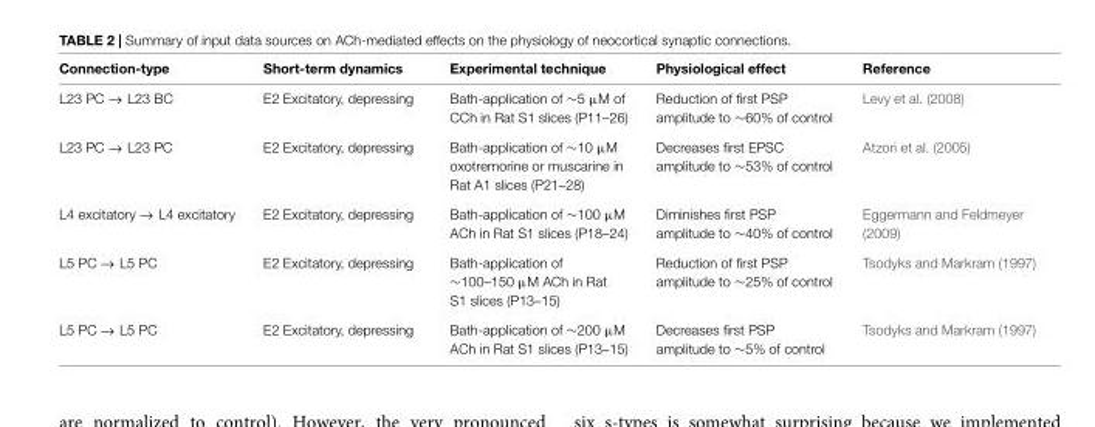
<table><thead><tr><td>Connection-type</td><td>Short-term dynamics</td><td>Experimental technique</td><td>Physiological effect</td><td>Reference</td></tr></thead><tbody><tr><td>L23 PC → L23 BC</td><td>E2 Excitatory, depressing</td><td>Bath-application of ∼5 µM of CCh in Rat S1 slices (P11–26)</td><td>Reduction of first PSP amplitude to ∼60% of control</td><td>Levy et al. (2008)</td></tr><tr><td>L23 PC → L23 PC</td><td>E2 Excitatory, depressing</td><td>Bath-application of ∼10 µM oxotremorine or muscarine in Rat A1 slices (P21–28)</td><td>Decreases first EPSC amplitude to ∼53% of control</td><td>Atzori et al. (2005)</td></tr><tr><td>L4 excitatory → L4 excitatory</td><td>E2 Excitatory, depressing</td><td>Bath-application of ∼100 µM ACh in Rat S1 slices (P18–24)</td><td>Diminishes first PSP amplitude to ∼40% of control</td><td>Eggermann and Feldmeyer (2009)</td></tr><tr><td>L5 PC → L5 PC</td><td>E2 Excitatory, depressing</td><td>Bath-application of ∼100–150 µM ACh in Rat S1 slices (P13–15)</td><td>Reduction of first PSP amplitude to ∼25% of control</td><td>Tsodyks and Markram (1997)</td></tr><tr><td>L5 PC → L5 PC</td><td>E2 Excitatory, depressing</td><td>Bath-application of ∼200 µM ACh in Rat S1 slices (P13–15)</td><td>Decreases first PSP amplitude to ∼5% of control</td><td>Tsodyks and Markram (1997)</td></tr></tbody></table>